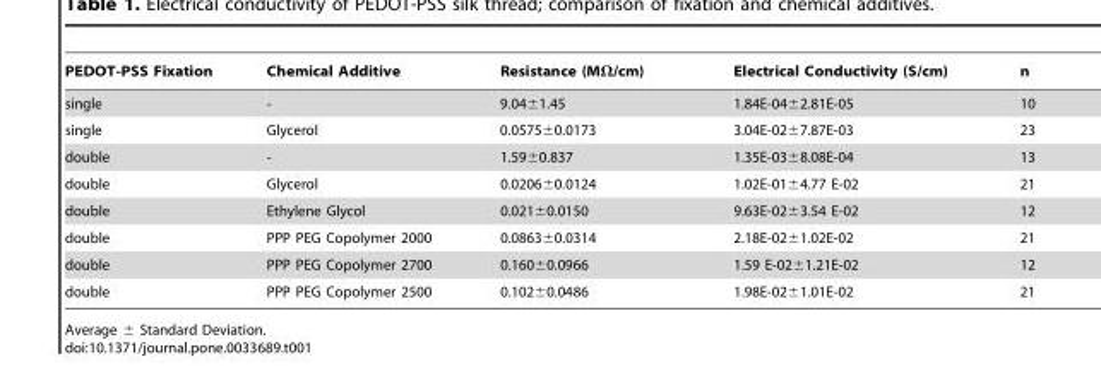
<table><thead><tr><td>PEDOT-PSS Fixation</td><td>Chemical Additive</td><td>Resistance (MΩ/cm)</td><td>Electrical Conductivity (S/cm)</td><td>n</td></tr></thead><tbody><tr><td>single</td><td>-</td><td>9.04±1.45</td><td>1.84E-04±2.81E-05</td><td>10</td></tr><tr><td>single</td><td>Glycerol</td><td>0.0575±0.0173</td><td>3.04E-02±7.87E-03</td><td>23</td></tr><tr><td>double</td><td>-</td><td>1.59±0.837</td><td>1.35E-03±8.08E-04</td><td>13</td></tr><tr><td>double</td><td>Glycerol</td><td>0.0206±0.0124</td><td>1.02E-01±4.77 E-02</td><td>21</td></tr><tr><td>double</td><td>Ethylene Glycol</td><td>0.021±0.0150</td><td>9.63E-02±3.54 E-02</td><td>12</td></tr><tr><td>double</td><td>PPP PEG Copolymer 2000</td><td>0.0863±0.0314</td><td>2.18E-02±1.02E-02</td><td>21</td></tr><tr><td>double</td><td>PPP PEG Copolymer 2700</td><td>0.160±0.0966</td><td>1.59 E-02±1.21E-02</td><td>12</td></tr><tr><td>double</td><td>PPP PEG Copolymer 2500</td><td>0.102±0.0486</td><td>1.98E-02±1.01E-02</td><td>21</td></tr></tbody></table>